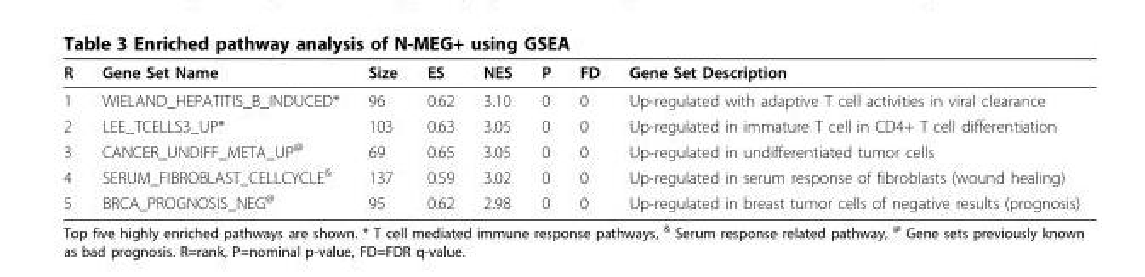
<table><thead><tr><td>R</td><td>Gene Set Name</td><td>Size</td><td>ES</td><td>NES</td><td>P</td><td>FD</td><td>Gene Set Description</td></tr></thead><tbody><tr><td>1</td><td>WIELAND_HEPATITIS_B_INDUCED*</td><td>96</td><td>0.62</td><td>3.10</td><td>0</td><td>0</td><td>Up-regulated with adaptive T cell activities in viral clearance</td></tr><tr><td>2</td><td>LEE_TCELLS3_UP*</td><td>103</td><td>0.63</td><td>3.05</td><td>0</td><td>0</td><td>Up-regulated in immature T cell in CD4+ T cell differentiation</td></tr><tr><td>3</td><td>CANCER_UNDIFF_META_UP<sup>@</sup></td><td>69</td><td>0.65</td><td>3.05</td><td>0</td><td>0</td><td>Up-regulated in undifferentiated tumor cells</td></tr><tr><td>4</td><td>SERUM_FIBROBLAST_CELLCYCLE<sup>&amp;</sup></td><td>137</td><td>0.59</td><td>3.02</td><td>0</td><td>0</td><td>Up-regulated in serum response of fibroblasts (wound healing)</td></tr><tr><td>5</td><td>BRCA_PROGNOSIS_NEG<sup>@</sup></td><td>95</td><td>0.62</td><td>2.98</td><td>0</td><td>0</td><td>Up-regulated in breast tumor cells of negative results (prognosis)</td></tr></tbody></table>